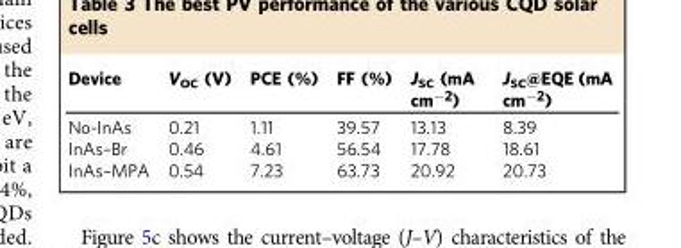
<table><thead><tr><td>Device</td><td>V<sub>OC</sub> (V)</td><td>PCE (%)</td><td>FF (%)</td><td>J<sub>SC</sub> (mA cm<sup>−2</sup>)</td><td>J<sub>SC</sub>@EQE (mA cm<sup>−2</sup>)</td></tr></thead><tbody><tr><td>No-InAs</td><td>0.21</td><td>1.11</td><td>39.57</td><td>13.13</td><td>8.39</td></tr><tr><td>InAs–Br</td><td>0.46</td><td>4.61</td><td>56.54</td><td>17.78</td><td>18.61</td></tr><tr><td>InAs–MPA</td><td>0.54</td><td>7.23</td><td>63.73</td><td>20.92</td><td>20.73</td></tr></tbody></table>